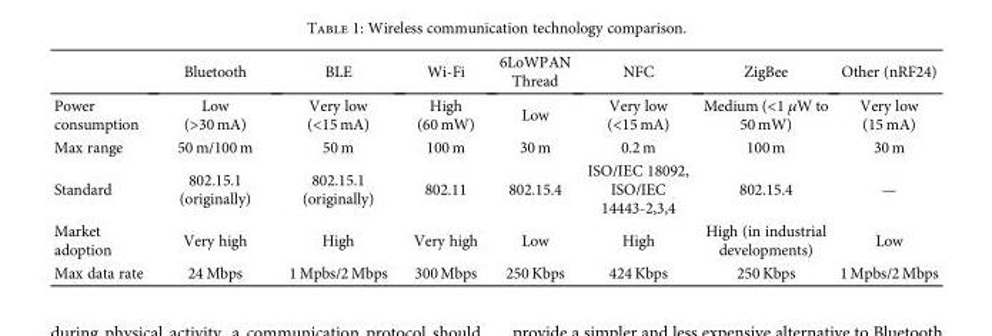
<table><thead><tr><td></td><td>Bluetooth</td><td>BLE</td><td>Wi-Fi</td><td>6LoWPAN Thread</td><td>NFC</td><td>ZigBee</td><td>Other (nRF24)</td></tr></thead><tbody><tr><td>Power consumption</td><td>Low (&gt;30 mA)</td><td>Very low (&lt;15 mA)</td><td>High (60 mW)</td><td>Low</td><td>Very low (&lt;15 mA)</td><td>Medium (&lt;1 μW to 50 mW)</td><td>Very low (15 mA)</td></tr><tr><td>Max range</td><td>50 m/100 m</td><td>50 m</td><td>100 m</td><td>30 m</td><td>0.2 m</td><td>100 m</td><td>30 m</td></tr><tr><td>Standard</td><td>802.15.1 (originally)</td><td>802.15.1 (originally)</td><td>802.11</td><td>802.15.4</td><td>ISO/IEC 18092, ISO/IEC 14443-2,3,4</td><td>802.15.4</td><td>—</td></tr><tr><td>Market adoption</td><td>Very high</td><td>High</td><td>Very high</td><td>Low</td><td>High</td><td>High (in industrial developments)</td><td>Low</td></tr><tr><td>Max data rate</td><td>24 Mbps</td><td>1 Mpbs/2 Mbps</td><td>300 Mbps</td><td>250 Kbps</td><td>424 Kbps</td><td>250 Kbps</td><td>1 Mpbs/2 Mbps</td></tr></tbody></table>